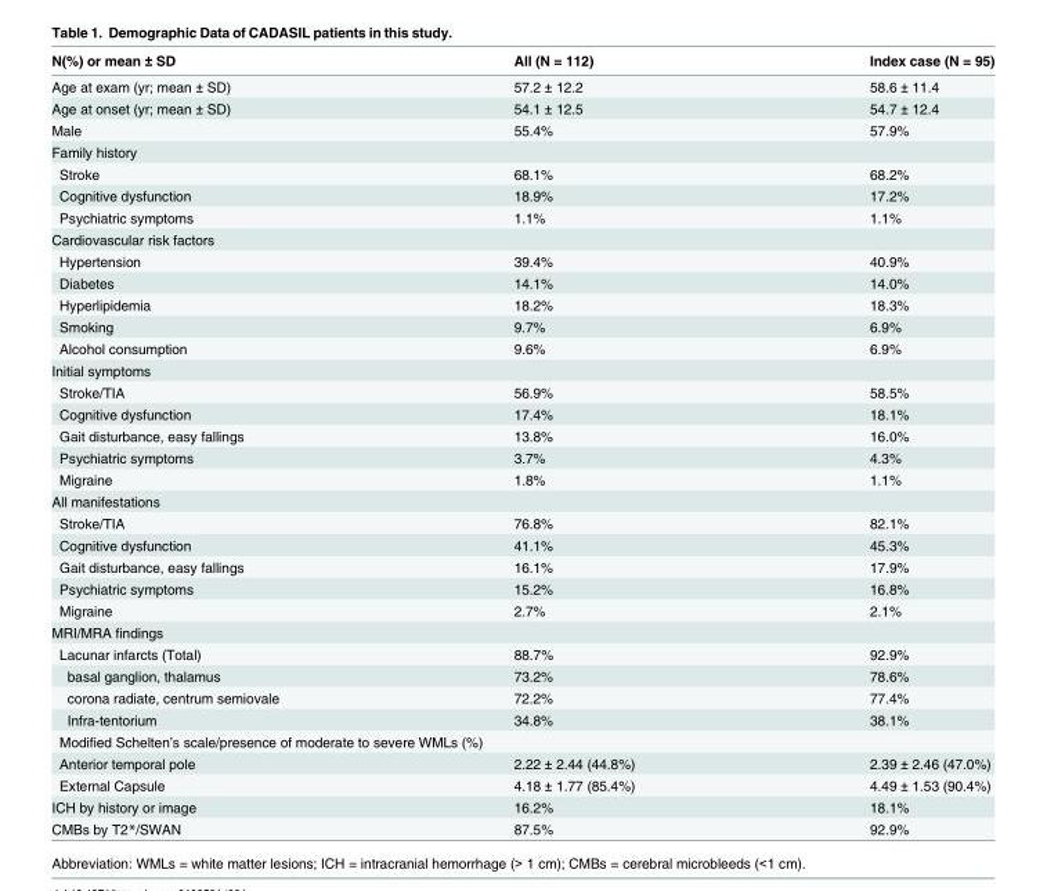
<table><thead><tr><td>N(%) or mean ± SD</td><td>All (N = 112)</td><td>Index case (N = 95)</td></tr></thead><tbody><tr><td>Age at exam (yr; mean ± SD)</td><td>57.2 ± 12.2</td><td>58.6 ± 11.4</td></tr><tr><td>Age at onset (yr; mean ± SD)</td><td>54.1 ± 12.5</td><td>54.7 ± 12.4</td></tr><tr><td>Male</td><td>55.4%</td><td>57.9%</td></tr><tr><td colspan="3">Family history</td></tr><tr><td>Stroke</td><td>68.1%</td><td>68.2%</td></tr><tr><td>Cognitive dysfunction</td><td>18.9%</td><td>17.2%</td></tr><tr><td>Psychiatric symptoms</td><td>1.1%</td><td>1.1%</td></tr><tr><td colspan="3">Cardiovascular risk factors</td></tr><tr><td>Hypertension</td><td>39.4%</td><td>40.9%</td></tr><tr><td>Diabetes</td><td>14.1%</td><td>14.0%</td></tr><tr><td>Hyperlipidemia</td><td>18.2%</td><td>18.3%</td></tr><tr><td>Smoking</td><td>9.7%</td><td>6.9%</td></tr><tr><td>Alcohol consumption</td><td>9.6%</td><td>6.9%</td></tr><tr><td colspan="3">Initial symptoms</td></tr><tr><td>Stroke/TIA</td><td>56.9%</td><td>58.5%</td></tr><tr><td>Cognitive dysfunction</td><td>17.4%</td><td>18.1%</td></tr><tr><td>Gait disturbance, easy fallings</td><td>13.8%</td><td>16.0%</td></tr><tr><td>Psychiatric symptoms</td><td>3.7%</td><td>4.3%</td></tr><tr><td>Migraine</td><td>1.8%</td><td>1.1%</td></tr><tr><td colspan="3">All manifestations</td></tr><tr><td>Stroke/TIA</td><td>76.8%</td><td>82.1%</td></tr><tr><td>Cognitive dysfunction</td><td>41.1%</td><td>45.3%</td></tr><tr><td>Gait disturbance, easy fallings</td><td>16.1%</td><td>17.9%</td></tr><tr><td>Psychiatric symptoms</td><td>15.2%</td><td>16.8%</td></tr><tr><td>Migraine</td><td>2.7%</td><td>2.1%</td></tr><tr><td colspan="3">MRI/MRA findings</td></tr><tr><td>Lacunar infarcts (Total)</td><td>88.7%</td><td>92.9%</td></tr><tr><td>basal ganglion, thalamus</td><td>73.2%</td><td>78.6%</td></tr><tr><td>corona radiate, centrum semiovale</td><td>72.2%</td><td>77.4%</td></tr><tr><td>Infra-tentorium</td><td>34.8%</td><td>38.1%</td></tr><tr><td colspan="3">Modified Schelten’s scale/presence of moderate to severe WMLs (%)</td></tr><tr><td>Anterior temporal pole</td><td>2.22 ± 2.44 (44.8%)</td><td>2.39 ± 2.46 (47.0%)</td></tr><tr><td>External Capsule</td><td>4.18 ± 1.77 (85.4%)</td><td>4.49 ± 1.53 (90.4%)</td></tr><tr><td>ICH by history or image</td><td>16.2%</td><td>18.1%</td></tr><tr><td>CMBs by T2*/SWAN</td><td>87.5%</td><td>92.9%</td></tr></tbody></table>